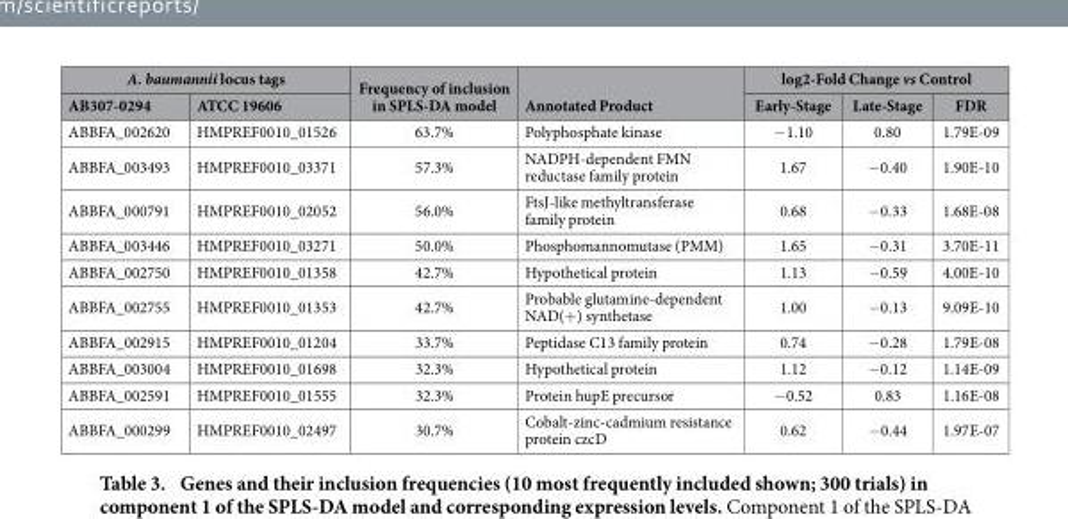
<table><thead><tr><td colspan="2">A. baumannii locus tags</td><td rowspan="2">Frequency of inclusion in SPLS-DA model</td><td rowspan="2">Annotated Product</td><td colspan="3">log2-Fold Change vs Control</td></tr><tr><td>AB307-0294</td><td>ATCC 19606</td><td>Early-Stage</td><td>Late-Stage</td><td>FDR</td></tr></thead><tbody><tr><td>ABBFA_002620</td><td>HMPREF0010_01526</td><td>63.7%</td><td>Polyphosphate kinase</td><td>− 1.10</td><td>0.80</td><td>1.79E-09</td></tr><tr><td>ABBFA_003493</td><td>HMPREF0010_03371</td><td>57.3%</td><td>NADPH-dependent FMN reductase family protein</td><td>1.67</td><td>− 0.40</td><td>1.90E-10</td></tr><tr><td>ABBFA_000791</td><td>HMPREF0010_02052</td><td>56.0%</td><td>FtsJ-like methyltransferase family protein</td><td>0.68</td><td>− 0.33</td><td>1.68E-08</td></tr><tr><td>ABBFA_003446</td><td>HMPREF0010_03271</td><td>50.0%</td><td>Phosphomannomutase (PMM)</td><td>1.65</td><td>− 0.31</td><td>3.70E-11</td></tr><tr><td>ABBFA_002750</td><td>HMPREF0010_01358</td><td>42.7%</td><td>Hypothetical protein</td><td>1.13</td><td>− 0.59</td><td>4.00E-10</td></tr><tr><td>ABBFA_002755</td><td>HMPREF0010_01353</td><td>42.7%</td><td>Probable glutamine-dependent NAD(+ ) synthetase</td><td>1.00</td><td>− 0.13</td><td>9.09E-10</td></tr><tr><td>ABBFA_002915</td><td>HMPREF0010_01204</td><td>33.7%</td><td>Peptidase C13 family protein</td><td>0.74</td><td>− 0.28</td><td>1.79E-08</td></tr><tr><td>ABBFA_003004</td><td>HMPREF0010_01698</td><td>32.3%</td><td>Hypothetical protein</td><td>1.12</td><td>− 0.12</td><td>1.14E-09</td></tr><tr><td>ABBFA_002591</td><td>HMPREF0010_01555</td><td>32.3%</td><td>Protein hupE precursor</td><td>− 0.52</td><td>0.83</td><td>1.16E-08</td></tr><tr><td>ABBFA_000299</td><td>HMPREF0010_02497</td><td>30.7%</td><td>Cobalt-zinc-cadmium resistance protein czcD</td><td>0.62</td><td>− 0.44</td><td>1.97E-07</td></tr></tbody></table>